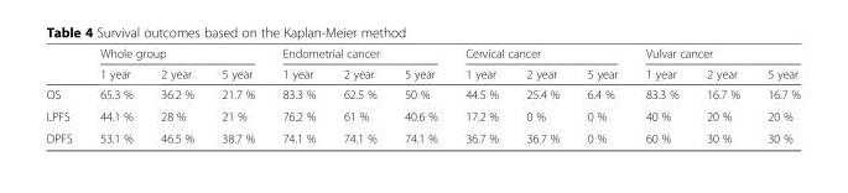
<table><thead><tr><td rowspan="2"></td><td colspan="3">Whole group</td><td colspan="3">Endometrial cancer</td><td colspan="3">Cervical cancer</td><td colspan="3">Vulvar cancer</td></tr><tr><td>1 year</td><td>2 year</td><td>5 year</td><td>1 year</td><td>2 year</td><td>5 year</td><td>1 year</td><td>2 year</td><td>5 year</td><td>1 year</td><td>2 year</td><td>5 year</td></tr></thead><tbody><tr><td>OS</td><td>65.3 %</td><td>36.2 %</td><td>21.7 %</td><td>83.3 %</td><td>62.5 %</td><td>50 %</td><td>44.5 %</td><td>25.4 %</td><td>6.4 %</td><td>83.3 %</td><td>16.7 %</td><td>16.7 %</td></tr><tr><td>LPFS</td><td>44.1 %</td><td>28 %</td><td>21 %</td><td>76.2 %</td><td>61 %</td><td>40.6 %</td><td>17.2 %</td><td>0 %</td><td>0 %</td><td>40 %</td><td>20 %</td><td>20 %</td></tr><tr><td>DPFS</td><td>53.1 %</td><td>46.5 %</td><td>38.7 %</td><td>74.1 %</td><td>74.1 %</td><td>74.1 %</td><td>36.7 %</td><td>36.7 %</td><td>0 %</td><td>60 %</td><td>30 %</td><td>30 %</td></tr></tbody></table>